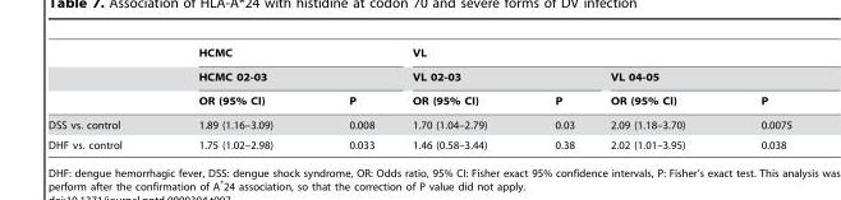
<table><thead><tr><td rowspan="3"></td><td rowspan="2" colspan="2">HCMC HCMC 02-03</td><td colspan="4">VL</td></tr><tr><td colspan="2">VL 02-03</td><td colspan="2">VL 04-05</td></tr><tr><td>OR (95% CI)</td><td>P</td><td>OR (95% CI)</td><td>P</td><td>OR (95% CI)</td><td>P</td></tr></thead><tbody><tr><td>DSS vs. control</td><td>1.89 (1.16–3.09)</td><td>0.008</td><td>1.70 (1.04–2.79)</td><td>0.03</td><td>2.09 (1.18–3.70)</td><td>0.0075</td></tr><tr><td>DHF vs. control</td><td>1.75 (1.02–2.98)</td><td>0.033</td><td>1.46 (0.58–3.44)</td><td>0.38</td><td>2.02 (1.01–3.95)</td><td>0.038</td></tr></tbody></table>